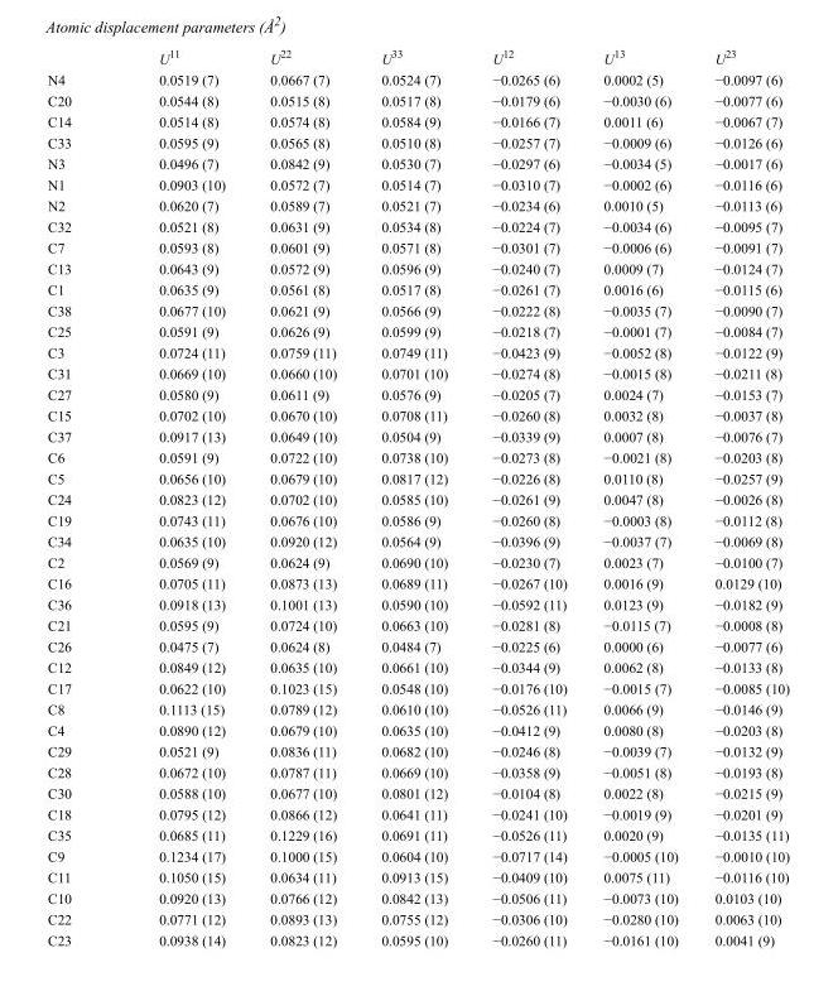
<table><thead><tr><td></td><td>U<sup>11</sup></td><td>U<sup>22</sup></td><td>U<sup>33</sup></td><td>U<sup>12</sup></td><td>U<sup>13</sup></td><td>U<sup>23</sup></td></tr></thead><tbody><tr><td>N4</td><td>0.0519 (7)</td><td>0.0667 (7)</td><td>0.0524 (7)</td><td>−0.0265 (6)</td><td>0.0002 (5)</td><td>−0.0097 (6)</td></tr><tr><td>C20</td><td>0.0544 (8)</td><td>0.0515 (8)</td><td>0.0517 (8)</td><td>−0.0179 (6)</td><td>−0.0030 (6)</td><td>−0.0077 (6)</td></tr><tr><td>C14</td><td>0.0514 (8)</td><td>0.0574 (8)</td><td>0.0584 (9)</td><td>−0.0166 (7)</td><td>0.0011 (6)</td><td>−0.0067 (7)</td></tr><tr><td>C33</td><td>0.0595 (9)</td><td>0.0565 (8)</td><td>0.0510 (8)</td><td>−0.0257 (7)</td><td>−0.0009 (6)</td><td>−0.0126 (6)</td></tr><tr><td>N3</td><td>0.0496 (7)</td><td>0.0842 (9)</td><td>0.0530 (7)</td><td>−0.0297 (6)</td><td>−0.0034 (5)</td><td>−0.0017 (6)</td></tr><tr><td>N1</td><td>0.0903 (10)</td><td>0.0572 (7)</td><td>0.0514 (7)</td><td>−0.0310 (7)</td><td>−0.0002 (6)</td><td>−0.0116 (6)</td></tr><tr><td>N2</td><td>0.0620 (7)</td><td>0.0589 (7)</td><td>0.0521 (7)</td><td>−0.0234 (6)</td><td>0.0010 (5)</td><td>−0.0113 (6)</td></tr><tr><td>C32</td><td>0.0521 (8)</td><td>0.0631 (9)</td><td>0.0534 (8)</td><td>−0.0224 (7)</td><td>−0.0034 (6)</td><td>−0.0095 (7)</td></tr><tr><td>C7</td><td>0.0593 (8)</td><td>0.0601 (9)</td><td>0.0571 (8)</td><td>−0.0301 (7)</td><td>−0.0006 (6)</td><td>−0.0091 (7)</td></tr><tr><td>C13</td><td>0.0643 (9)</td><td>0.0572 (9)</td><td>0.0596 (9)</td><td>−0.0240 (7)</td><td>0.0009 (7)</td><td>−0.0124 (7)</td></tr><tr><td>C1</td><td>0.0635 (9)</td><td>0.0561 (8)</td><td>0.0517 (8)</td><td>−0.0261 (7)</td><td>0.0016 (6)</td><td>−0.0115 (6)</td></tr><tr><td>C38</td><td>0.0677 (10)</td><td>0.0621 (9)</td><td>0.0566 (9)</td><td>−0.0222 (8)</td><td>−0.0035 (7)</td><td>−0.0090 (7)</td></tr><tr><td>C25</td><td>0.0591 (9)</td><td>0.0626 (9)</td><td>0.0599 (9)</td><td>−0.0218 (7)</td><td>−0.0001 (7)</td><td>−0.0084 (7)</td></tr><tr><td>C3</td><td>0.0724 (11)</td><td>0.0759 (11)</td><td>0.0749 (11)</td><td>−0.0423 (9)</td><td>−0.0052 (8)</td><td>−0.0122 (9)</td></tr><tr><td>C31</td><td>0.0669 (10)</td><td>0.0660 (10)</td><td>0.0701 (10)</td><td>−0.0274 (8)</td><td>−0.0015 (8)</td><td>−0.0211 (8)</td></tr><tr><td>C27</td><td>0.0580 (9)</td><td>0.0611 (9)</td><td>0.0576 (9)</td><td>−0.0205 (7)</td><td>0.0024 (7)</td><td>−0.0153 (7)</td></tr><tr><td>C15</td><td>0.0702 (10)</td><td>0.0670 (10)</td><td>0.0708 (11)</td><td>−0.0260 (8)</td><td>0.0032 (8)</td><td>−0.0037 (8)</td></tr><tr><td>C37</td><td>0.0917 (13)</td><td>0.0649 (10)</td><td>0.0504 (9)</td><td>−0.0339 (9)</td><td>0.0007 (8)</td><td>−0.0076 (7)</td></tr><tr><td>C6</td><td>0.0591 (9)</td><td>0.0722 (10)</td><td>0.0738 (10)</td><td>−0.0273 (8)</td><td>−0.0021 (8)</td><td>−0.0203 (8)</td></tr><tr><td>C5</td><td>0.0656 (10)</td><td>0.0679 (10)</td><td>0.0817 (12)</td><td>−0.0226 (8)</td><td>0.0110 (8)</td><td>−0.0257 (9)</td></tr><tr><td>C24</td><td>0.0823 (12)</td><td>0.0702 (10)</td><td>0.0585 (10)</td><td>−0.0261 (9)</td><td>0.0047 (8)</td><td>−0.0026 (8)</td></tr><tr><td>C19</td><td>0.0743 (11)</td><td>0.0676 (10)</td><td>0.0586 (9)</td><td>−0.0260 (8)</td><td>−0.0003 (8)</td><td>−0.0112 (8)</td></tr><tr><td>C34</td><td>0.0635 (10)</td><td>0.0920 (12)</td><td>0.0564 (9)</td><td>−0.0396 (9)</td><td>−0.0037 (7)</td><td>−0.0069 (8)</td></tr><tr><td>C2</td><td>0.0569 (9)</td><td>0.0624 (9)</td><td>0.0690 (10)</td><td>−0.0230 (7)</td><td>0.0023 (7)</td><td>−0.0100 (7)</td></tr><tr><td>C16</td><td>0.0705 (11)</td><td>0.0873 (13)</td><td>0.0689 (11)</td><td>−0.0267 (10)</td><td>0.0016 (9)</td><td>0.0129 (10)</td></tr><tr><td>C36</td><td>0.0918 (13)</td><td>0.1001 (13)</td><td>0.0590 (10)</td><td>−0.0592 (11)</td><td>0.0123 (9)</td><td>−0.0182 (9)</td></tr><tr><td>C21</td><td>0.0595 (9)</td><td>0.0724 (10)</td><td>0.0663 (10)</td><td>−0.0281 (8)</td><td>−0.0115 (7)</td><td>−0.0008 (8)</td></tr><tr><td>C26</td><td>0.0475 (7)</td><td>0.0624 (8)</td><td>0.0484 (7)</td><td>−0.0225 (6)</td><td>0.0000 (6)</td><td>−0.0077 (6)</td></tr><tr><td>C12</td><td>0.0849 (12)</td><td>0.0635 (10)</td><td>0.0661 (10)</td><td>−0.0344 (9)</td><td>0.0062 (8)</td><td>−0.0133 (8)</td></tr><tr><td>C17</td><td>0.0622 (10)</td><td>0.1023 (15)</td><td>0.0548 (10)</td><td>−0.0176 (10)</td><td>−0.0015 (7)</td><td>−0.0085 (10)</td></tr><tr><td>C8</td><td>0.1113 (15)</td><td>0.0789 (12)</td><td>0.0610 (10)</td><td>−0.0526 (11)</td><td>0.0066 (9)</td><td>−0.0146 (9)</td></tr><tr><td>C4</td><td>0.0890 (12)</td><td>0.0679 (10)</td><td>0.0635 (10)</td><td>−0.0412 (9)</td><td>0.0080 (8)</td><td>−0.0203 (8)</td></tr><tr><td>C29</td><td>0.0521 (9)</td><td>0.0836 (11)</td><td>0.0682 (10)</td><td>−0.0246 (8)</td><td>−0.0039 (7)</td><td>−0.0132 (9)</td></tr><tr><td>C28</td><td>0.0672 (10)</td><td>0.0787 (11)</td><td>0.0669 (10)</td><td>−0.0358 (9)</td><td>−0.0051 (8)</td><td>−0.0193 (8)</td></tr><tr><td>C30</td><td>0.0588 (10)</td><td>0.0677 (10)</td><td>0.0801 (12)</td><td>−0.0104 (8)</td><td>0.0022 (8)</td><td>−0.0215 (9)</td></tr><tr><td>C18</td><td>0.0795 (12)</td><td>0.0866 (12)</td><td>0.0641 (11)</td><td>−0.0241 (10)</td><td>−0.0019 (9)</td><td>−0.0201 (9)</td></tr><tr><td>C35</td><td>0.0685 (11)</td><td>0.1229 (16)</td><td>0.0691 (11)</td><td>−0.0526 (11)</td><td>0.0020 (9)</td><td>−0.0135 (11)</td></tr><tr><td>C9</td><td>0.1234 (17)</td><td>0.1000 (15)</td><td>0.0604 (10)</td><td>−0.0717 (14)</td><td>−0.0005 (10)</td><td>−0.0010 (10)</td></tr><tr><td>C11</td><td>0.1050 (15)</td><td>0.0634 (11)</td><td>0.0913 (15)</td><td>−0.0409 (10)</td><td>0.0075 (11)</td><td>−0.0116 (10)</td></tr><tr><td>C10</td><td>0.0920 (13)</td><td>0.0766 (12)</td><td>0.0842 (13)</td><td>−0.0506 (11)</td><td>−0.0073 (10)</td><td>0.0103 (10)</td></tr><tr><td>C22</td><td>0.0771 (12)</td><td>0.0893 (13)</td><td>0.0755 (12)</td><td>−0.0306 (10)</td><td>−0.0280 (10)</td><td>0.0063 (10)</td></tr><tr><td>C23</td><td>0.0938 (14)</td><td>0.0823 (12)</td><td>0.0595 (10)</td><td>−0.0260 (11)</td><td>−0.0161 (10)</td><td>0.0041 (9)</td></tr></tbody></table>